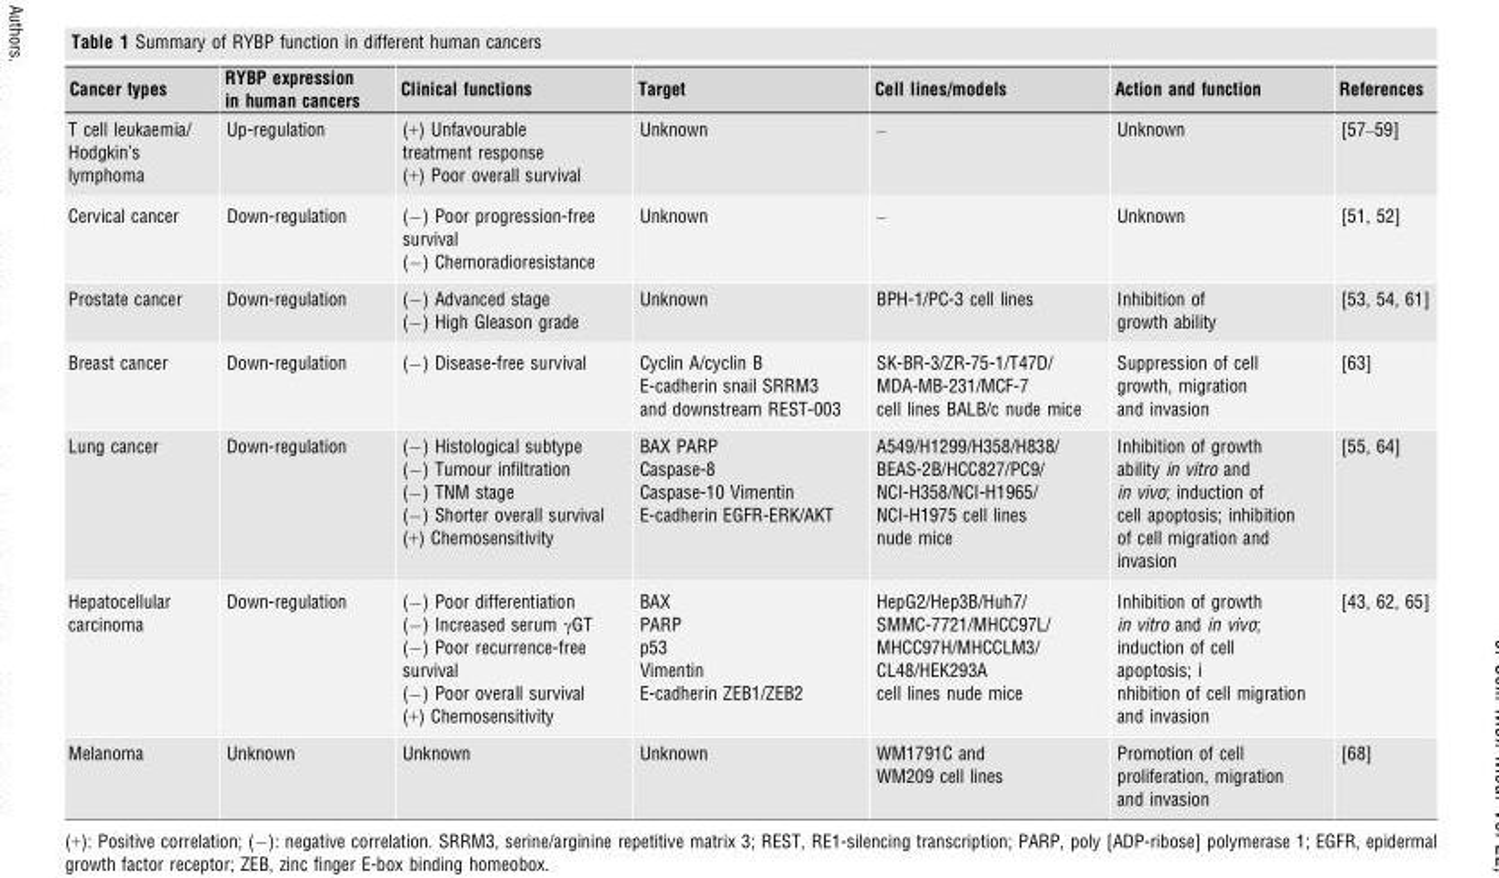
<table><thead><tr><td>Cancer types</td><td>RYBP expression in human cancers</td><td>Clinical functions</td><td>Target</td><td>Cell lines/models</td><td>Action and function</td><td>References</td></tr></thead><tbody><tr><td>T cell leukaemia/ Hodgkin’s lymphoma</td><td>Up-regulation</td><td>(+) Unfavourable treatment response (+) Poor overall survival</td><td>Unknown</td><td>–</td><td>Unknown</td><td>[57–59]</td></tr><tr><td>Cervical cancer</td><td>Down-regulation</td><td>(−) Poor progression-free survival (−) Chemoradioresistance</td><td>Unknown</td><td>–</td><td>Unknown</td><td>[51, 52]</td></tr><tr><td>Prostate cancer</td><td>Down-regulation</td><td>(−) Advanced stage (−) High Gleason grade</td><td>Unknown</td><td>BPH-1/PC-3 cell lines</td><td>Inhibition of growth ability</td><td>[53, 54, 61]</td></tr><tr><td>Breast cancer</td><td>Down-regulation</td><td>(−) Disease-free survival</td><td>Cyclin A/cyclin B E-cadherin snail SRRM3 and downstream REST-003</td><td>SK-BR-3/ZR-75-1/T47D/ MDA-MB-231/MCF-7 cell lines BALB/c nude mice</td><td>Suppression of cell growth, migration and invasion</td><td>[63]</td></tr><tr><td>Lung cancer</td><td>Down-regulation</td><td>(−) Histological subtype (−) Tumour infiltration (−) TNM stage (−) Shorter overall survival (+) Chemosensitivity</td><td>BAX PARP Caspase-8 Caspase-10 Vimentin E-cadherin EGFR-ERK/AKT</td><td>A549/H1299/H358/H838/ BEAS-2B/HCC827/PC9/ NCI-H358/NCI-H1965/ NCI-H1975 cell lines nude mice</td><td>Inhibition of growth ability in vitro and in vivo; induction of cell apoptosis; inhibition of cell migration and invasion</td><td>[55, 64]</td></tr><tr><td>Hepatocellular carcinoma</td><td>Down-regulation</td><td>(−) Poor differentiation (−) Increased serum γGT (−) Poor recurrence-free survival (−) Poor overall survival (+) Chemosensitivity</td><td>BAX PARP p53 Vimentin E-cadherin ZEB1/ZEB2</td><td>HepG2/Hep3B/Huh7/ SMMC-7721/MHCC97L/ MHCC97H/MHCCLM3/ CL48/HEK293A cell lines nude mice</td><td>Inhibition of growth in vitro and in vivo; induction of cell apoptosis; i nhibition of cell migration and invasion</td><td>[43, 62, 65]</td></tr><tr><td>Melanoma</td><td>Unknown</td><td>Unknown</td><td>Unknown</td><td>WM1791C and WM209 cell lines</td><td>Promotion of cell proliferation, migration and invasion</td><td>[68]</td></tr></tbody></table>